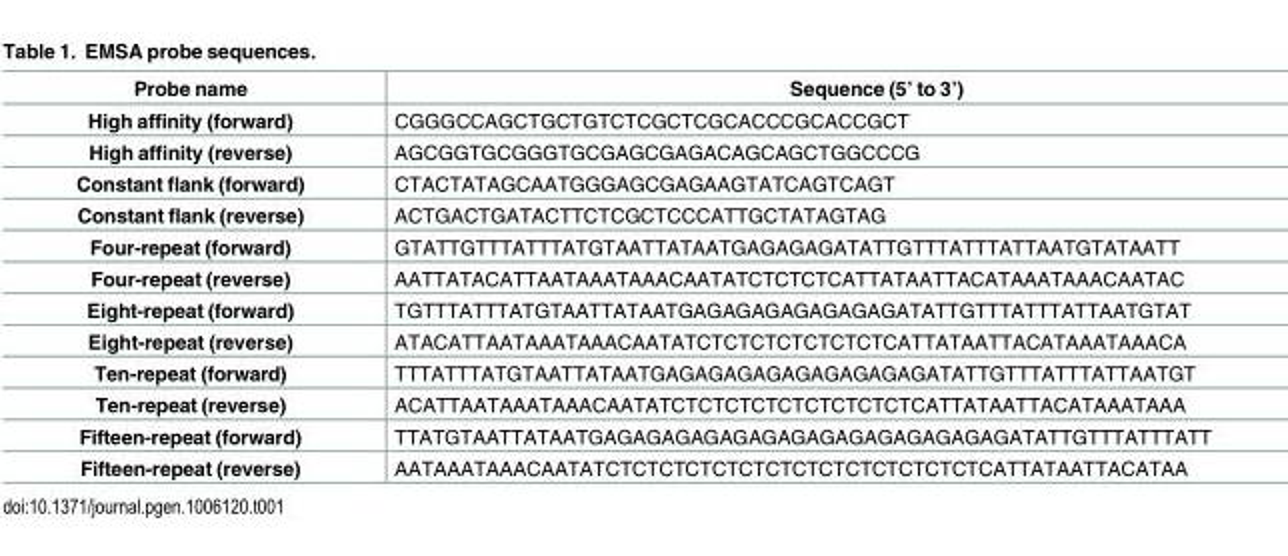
<table><thead><tr><td>Probe name</td><td>Sequence (5’ to 3’)</td></tr></thead><tbody><tr><td>High affinity (forward)</td><td>CGGGCCAGCTGCTGTCTCGCTCGCACCCGCACCGCT</td></tr><tr><td>High affinity (reverse)</td><td>AGCGGTGCGGGTGCGAGCGAGACAGCAGCTGGCCCG</td></tr><tr><td>Constant flank (forward)</td><td>CTACTATAGCAATGGGAGCGAGAAGTATCAGTCAGT</td></tr><tr><td>Constant flank (reverse)</td><td>ACTGACTGATACTTCTCGCTCCCATTGCTATAGTAG</td></tr><tr><td>Four-repeat (forward)</td><td>GTATTGTTTATTTATGTAATTATAATGAGAGAGATATTGTTTATTTATTAATGTATAATT</td></tr><tr><td>Four-repeat (reverse)</td><td>AATTATACATTAATAAATAAACAATATCTCTCTCATTATAATTACATAAATAAACAATAC</td></tr><tr><td>Eight-repeat (forward)</td><td>TGTTTATTTATGTAATTATAATGAGAGAGAGAGAGAGATATTGTTTATTTATTAATGTAT</td></tr><tr><td>Eight-repeat (reverse)</td><td>ATACATTAATAAATAAACAATATCTCTCTCTCTCTCTCATTATAATTACATAAATAAACA</td></tr><tr><td>Ten-repeat (forward)</td><td>TTTATTTATGTAATTATAATGAGAGAGAGAGAGAGAGAGATATTGTTTATTTATTAATGT</td></tr><tr><td>Ten-repeat (reverse)</td><td>ACATTAATAAATAAACAATATCTCTCTCTCTCTCTCTCTCATTATAATTACATAAATAAA</td></tr><tr><td>Fifteen-repeat (forward)</td><td>TTATGTAATTATAATGAGAGAGAGAGAGAGAGAGAGAGAGAGAGATATTGTTTATTTATT</td></tr><tr><td>Fifteen-repeat (reverse)</td><td>AATAAATAAACAATATCTCTCTCTCTCTCTCTCTCTCTCTCTCTCATTATAATTACATAA</td></tr></tbody></table>